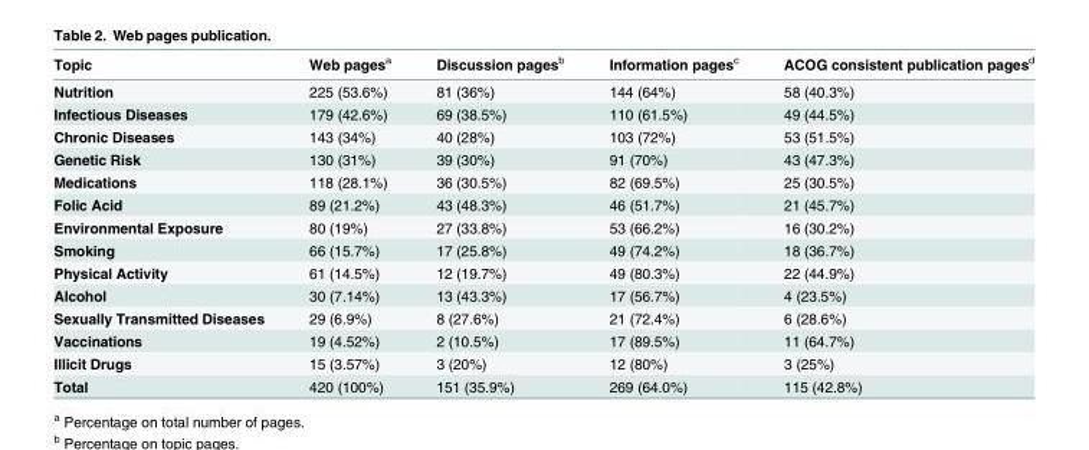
<table><thead><tr><td>Topic</td><td>Web pages<sup>a</sup></td><td>Discussion pages<sup>b</sup></td><td>Information pages<sup>c</sup></td><td>ACOG consistent publication pages<sup>d</sup></td></tr></thead><tbody><tr><td>Nutrition</td><td>225 (53.6%)</td><td>81 (36%)</td><td>144 (64%)</td><td>58 (40.3%)</td></tr><tr><td>Infectious Diseases</td><td>179 (42.6%)</td><td>69 (38.5%)</td><td>110 (61.5%)</td><td>49 (44.5%)</td></tr><tr><td>Chronic Diseases</td><td>143 (34%)</td><td>40 (28%)</td><td>103 (72%)</td><td>53 (51.5%)</td></tr><tr><td>Genetic Risk</td><td>130 (31%)</td><td>39 (30%)</td><td>91 (70%)</td><td>43 (47.3%)</td></tr><tr><td>Medications</td><td>118 (28.1%)</td><td>36 (30.5%)</td><td>82 (69.5%)</td><td>25 (30.5%)</td></tr><tr><td>Folic Acid</td><td>89 (21.2%)</td><td>43 (48.3%)</td><td>46 (51.7%)</td><td>21 (45.7%)</td></tr><tr><td>Environmental Exposure</td><td>80 (19%)</td><td>27 (33.8%)</td><td>53 (66.2%)</td><td>16 (30.2%)</td></tr><tr><td>Smoking</td><td>66 (15.7%)</td><td>17 (25.8%)</td><td>49 (74.2%)</td><td>18 (36.7%)</td></tr><tr><td>Physical Activity</td><td>61 (14.5%)</td><td>12 (19.7%)</td><td>49 (80.3%)</td><td>22 (44.9%)</td></tr><tr><td>Alcohol</td><td>30 (7.14%)</td><td>13 (43.3%)</td><td>17 (56.7%)</td><td>4 (23.5%)</td></tr><tr><td>Sexually Transmitted Diseases</td><td>29 (6.9%)</td><td>8 (27.6%)</td><td>21 (72.4%)</td><td>6 (28.6%)</td></tr><tr><td>Vaccinations</td><td>19 (4.52%)</td><td>2 (10.5%)</td><td>17 (89.5%)</td><td>11 (64.7%)</td></tr><tr><td>Illicit Drugs</td><td>15 (3.57%)</td><td>3 (20%)</td><td>12 (80%)</td><td>3 (25%)</td></tr><tr><td>Total</td><td>420 (100%)</td><td>151 (35.9%)</td><td>269 (64.0%)</td><td>115 (42.8%)</td></tr></tbody></table>